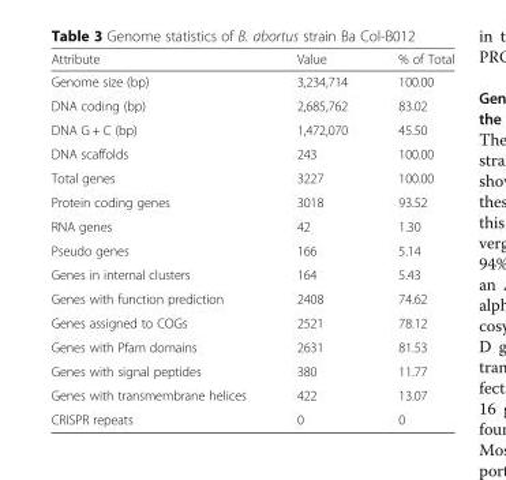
<table><thead><tr><td>Attribute</td><td>Value</td><td>% of Total</td></tr></thead><tbody><tr><td>Genome size (bp)</td><td>3,234,714</td><td>100.00</td></tr><tr><td>DNA coding (bp)</td><td>2,685,762</td><td>83.02</td></tr><tr><td>DNA G + C (bp)</td><td>1,472,070</td><td>45.50</td></tr><tr><td>DNA scaffolds</td><td>243</td><td>100.00</td></tr><tr><td>Total genes</td><td>3227</td><td>100.00</td></tr><tr><td>Protein coding genes</td><td>3018</td><td>93.52</td></tr><tr><td>RNA genes</td><td>42</td><td>1.30</td></tr><tr><td>Pseudo genes</td><td>166</td><td>5.14</td></tr><tr><td>Genes in internal clusters</td><td>164</td><td>5.43</td></tr><tr><td>Genes with function prediction</td><td>2408</td><td>74.62</td></tr><tr><td>Genes assigned to COGs</td><td>2521</td><td>78.12</td></tr><tr><td>Genes with Pfam domains</td><td>2631</td><td>81.53</td></tr><tr><td>Genes with signal peptides</td><td>380</td><td>11.77</td></tr><tr><td>Genes with transmembrane helices</td><td>422</td><td>13.07</td></tr><tr><td>CRISPR repeats</td><td>0</td><td>0</td></tr></tbody></table>